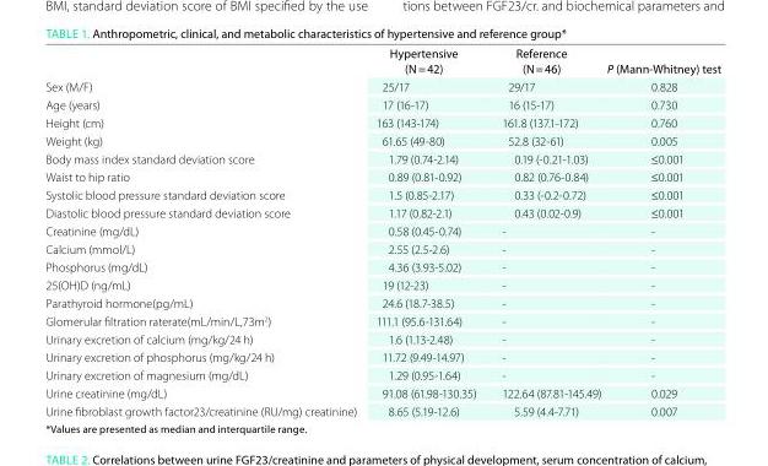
<table><thead><tr><td></td><td>hypertensive (n = 42)</td><td>Reference (n = 46)</td><td>P (Mann-Whitney) test</td></tr></thead><tbody><tr><td>Sex (M/F)</td><td>25/17</td><td>29/17</td><td>0.828</td></tr><tr><td>Age (years)</td><td>17 (16-17)</td><td>16 (15-17)</td><td>0.730</td></tr><tr><td>Height (cm)</td><td>163 (143-174)</td><td>161.8 (137.1-172)</td><td>0.760</td></tr><tr><td>Weight (kg)</td><td>61.65 (49-80)</td><td>52.8 (32-61)</td><td>0.005</td></tr><tr><td>Body mass index standard deviation score</td><td>1.79 (0.74-2.14)</td><td>0.19 (-0.21-1.03)</td><td>≤0.001</td></tr><tr><td>Waist to hip ratio</td><td>0.89 (0.81-0.92)</td><td>0.82 (0.76-0.84)</td><td>≤0.001</td></tr><tr><td>Systolic blood pressure standard deviation score</td><td>1.5 (0.85-2.17)</td><td>0.33 (-0.2-0.72)</td><td>≤0.001</td></tr><tr><td>Diastolic blood pressure standard deviation score</td><td>1.17 (0.82-2.1)</td><td>0.43 (0.02-0.9)</td><td>≤0.001</td></tr><tr><td>Creatinine (mg/dL)</td><td>0.58 (0.45-0.74)</td><td>-</td><td>-</td></tr><tr><td>Calcium (mmol/L)</td><td>2.55 (2.5-2.6)</td><td>-</td><td>-</td></tr><tr><td>Phosphorus (mg/dL)</td><td>4.36 (3.93-5.02)</td><td>-</td><td>-</td></tr><tr><td>25(OH)D (ng/mL)</td><td>19 (12-23)</td><td>-</td><td>-</td></tr><tr><td>Parathyroid hormone(pg/mL)</td><td>24.6 (18.7-38.5)</td><td>-</td><td>-</td></tr><tr><td>Glomerular filtration raterate(mL/min/L,73m<sup>2</sup>)</td><td>111.1 (95.6-131.64)</td><td>-</td><td>-</td></tr><tr><td>Urinary excretion of calcium (mg/kg/24 h)</td><td>1.6 (1.13-2.48)</td><td>-</td><td>-</td></tr><tr><td>Urinary excretion of phosphorus (mg/kg/24 h)</td><td>11.72 (9.49-14.97)</td><td>-</td><td>-</td></tr><tr><td>Urinary excretion of magnesium (mg/dL)</td><td>1.29 (0.95-1.64)</td><td>-</td><td>-</td></tr><tr><td>Urine creatinine (mg/dL)</td><td>91.08 (61.98-130.35)</td><td>122.64 (87.81-145.49)</td><td>0.029</td></tr><tr><td>Urine fibroblast growth factor23/creatinine (RU/mg) creatinine)</td><td>8.65 (5.19-12.6)</td><td>5.59 (4.4-7.71)</td><td>0.007</td></tr></tbody></table>